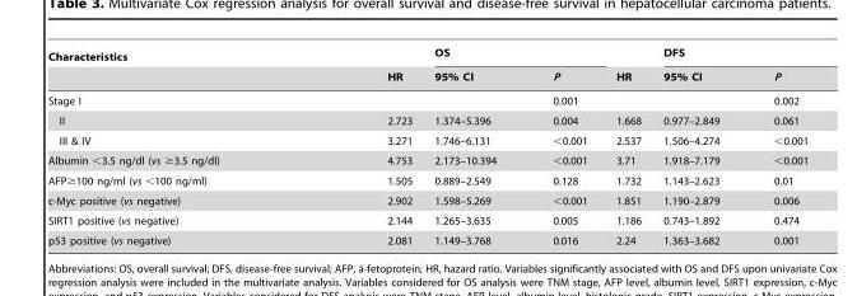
<table><thead><tr><td rowspan="2">Characteristics</td><td rowspan="2">HR</td><td colspan="2">OS</td><td rowspan="2">HR</td><td colspan="2">DFS</td></tr><tr><td>95% CI</td><td>P</td><td>95% CI</td><td>P</td></tr></thead><tbody><tr><td>Stage I</td><td></td><td></td><td>0.001</td><td></td><td></td><td>0.002</td></tr><tr><td>II</td><td>2.723</td><td>1.374–5.396</td><td>0.004</td><td>1.668</td><td>0.977–2.849</td><td>0.061</td></tr><tr><td>III &amp; IV</td><td>3.271</td><td>1.746–6.131</td><td>&lt;0.001</td><td>2.537</td><td>1.506–4.274</td><td>&lt;0.001</td></tr><tr><td>Albumin &lt;3.5 ng/dl (vs ≥3.5 ng/dl)</td><td>4.753</td><td>2.173–10.394</td><td>&lt;0.001</td><td>3.71</td><td>1.918–7.179</td><td>&lt;0.001</td></tr><tr><td>AFP≥100 ng/ml (vs &lt;100 ng/ml)</td><td>1.505</td><td>0.889–2.549</td><td>0.128</td><td>1.732</td><td>1.143–2.623</td><td>0.01</td></tr><tr><td>c-Myc positive (vs negative)</td><td>2.902</td><td>1.598–5.269</td><td>&lt;0.001</td><td>1.851</td><td>1.190–2.879</td><td>0.006</td></tr><tr><td>SIRT1 positive (vs negative)</td><td>2.144</td><td>1.265–3.635</td><td>0.005</td><td>1.186</td><td>0.743–1.892</td><td>0.474</td></tr><tr><td>p53 positive (vs negative)</td><td>2.081</td><td>1.149–3.768</td><td>0.016</td><td>2.24</td><td>1.363–3.682</td><td>0.001</td></tr></tbody></table>